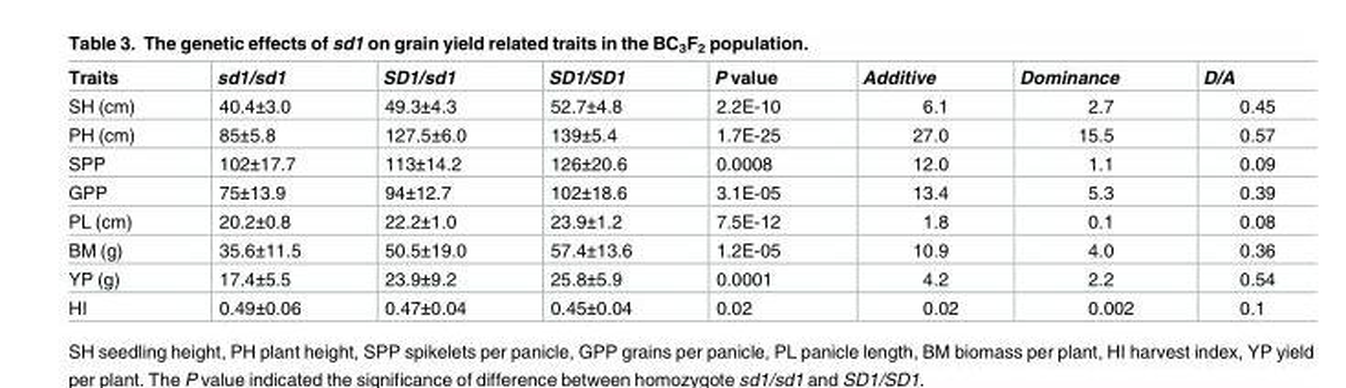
<table><thead><tr><td>Traits</td><td>sd1/sd1</td><td>SD1/sd1</td><td>SD1/SD1</td><td>P value</td><td>Additive</td><td>Dominance</td><td>D/A</td></tr></thead><tbody><tr><td>SH (cm)</td><td>40.4±3.0</td><td>49.3±4.3</td><td>52.7±4.8</td><td>2.2E-10</td><td>6.1</td><td>2.7</td><td>0.45</td></tr><tr><td>PH (cm)</td><td>85±5.8</td><td>127.5±6.0</td><td>139±5.4</td><td>1.7E-25</td><td>27.0</td><td>15.5</td><td>0.57</td></tr><tr><td>SPP</td><td>102±17.7</td><td>113±14.2</td><td>126±20.6</td><td>0.0008</td><td>12.0</td><td>1.1</td><td>0.09</td></tr><tr><td>GPP</td><td>75±13.9</td><td>94±12.7</td><td>102±18.6</td><td>3.1E-05</td><td>13.4</td><td>5.3</td><td>0.39</td></tr><tr><td>PL (cm)</td><td>20.2±0.8</td><td>22.2±1.0</td><td>23.9±1.2</td><td>7.5E-12</td><td>1.8</td><td>0.1</td><td>0.08</td></tr><tr><td>BM (g)</td><td>35.6±11.5</td><td>50.5±19.0</td><td>57.4±13.6</td><td>1.2E-05</td><td>10.9</td><td>4.0</td><td>0.36</td></tr><tr><td>YP (g)</td><td>17.4±5.5</td><td>23.9±9.2</td><td>25.8±5.9</td><td>0.0001</td><td>4.2</td><td>2.2</td><td>0.54</td></tr><tr><td>HI</td><td>0.49±0.06</td><td>0.47±0.04</td><td>0.45±0.04</td><td>0.02</td><td>0.02</td><td>0.002</td><td>0.1</td></tr></tbody></table>